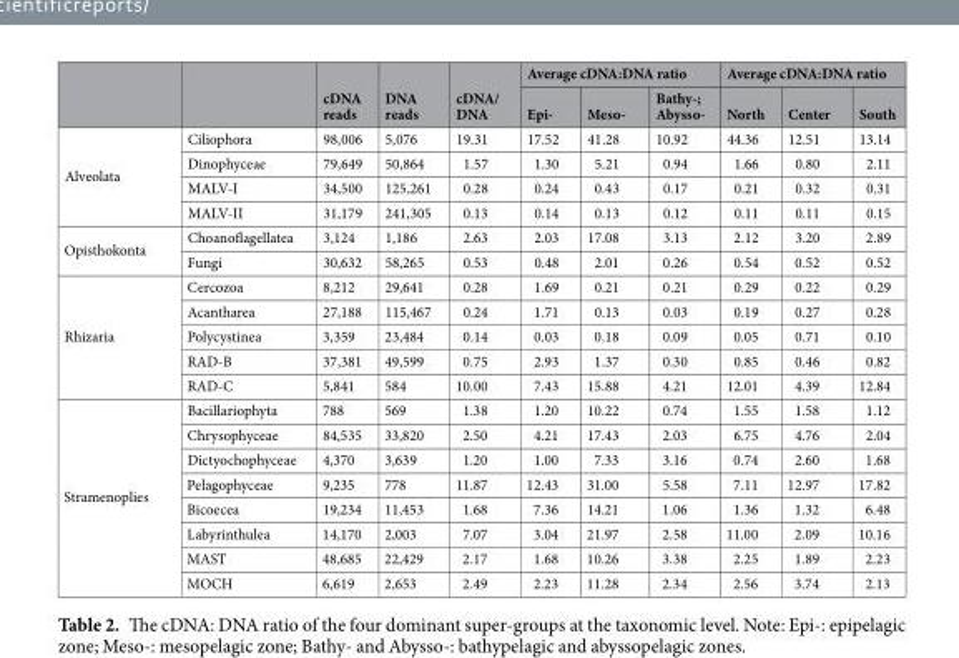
<table><thead><tr><td rowspan="2"></td><td rowspan="2"></td><td rowspan="2">cDNA reads</td><td rowspan="2">DNA reads</td><td rowspan="2">cDNA/ DNA</td><td colspan="3">Average cDNA:DNA ratio</td><td colspan="3">Average cDNA:DNA ratio</td></tr><tr><td>Epi-</td><td>Meso-</td><td>Bathy-; Abysso-</td><td>North</td><td>Center</td><td>South</td></tr></thead><tbody><tr><td rowspan="4">Alveolata</td><td>Ciliophora</td><td>98,006</td><td>5,076</td><td>19.31</td><td>17.52</td><td>41.28</td><td>10.92</td><td>44.36</td><td>12.51</td><td>13.14</td></tr><tr><td>Dinophyceae</td><td>79,649</td><td>50,864</td><td>1.57</td><td>1.30</td><td>5.21</td><td>0.94</td><td>1.66</td><td>0.80</td><td>2.11</td></tr><tr><td>MALV-I</td><td>34,500</td><td>125,261</td><td>0.28</td><td>0.24</td><td>0.43</td><td>0.17</td><td>0.21</td><td>0.32</td><td>0.31</td></tr><tr><td>MALV-II</td><td>31,179</td><td>241,305</td><td>0.13</td><td>0.14</td><td>0.13</td><td>0.12</td><td>0.11</td><td>0.11</td><td>0.15</td></tr><tr><td rowspan="2">Opisthokonta</td><td>Choanoflagellatea</td><td>3,124</td><td>1,186</td><td>2.63</td><td>2.03</td><td>17.08</td><td>3.13</td><td>2.12</td><td>3.20</td><td>2.89</td></tr><tr><td>Fungi</td><td>30,632</td><td>58,265</td><td>0.53</td><td>0.48</td><td>2.01</td><td>0.26</td><td>0.54</td><td>0.52</td><td>0.52</td></tr><tr><td rowspan="5">Rhizaria</td><td>Cercozoa</td><td>8,212</td><td>29,641</td><td>0.28</td><td>1.69</td><td>0.21</td><td>0.21</td><td>0.29</td><td>0.22</td><td>0.29</td></tr><tr><td>Acantharea</td><td>27,188</td><td>115,467</td><td>0.24</td><td>1.71</td><td>0.13</td><td>0.03</td><td>0.19</td><td>0.27</td><td>0.28</td></tr><tr><td>Polycystinea</td><td>3,359</td><td>23,484</td><td>0.14</td><td>0.03</td><td>0.18</td><td>0.09</td><td>0.05</td><td>0.71</td><td>0.10</td></tr><tr><td>RAD-B</td><td>37,381</td><td>49,599</td><td>0.75</td><td>2.93</td><td>1.37</td><td>0.30</td><td>0.85</td><td>0.46</td><td>0.82</td></tr><tr><td>RAD-C</td><td>5,841</td><td>584</td><td>10.00</td><td>7.43</td><td>15.88</td><td>4.21</td><td>12.01</td><td>4.39</td><td>12.84</td></tr><tr><td rowspan="8">Stramenoplies</td><td>Bacillariophyta</td><td>788</td><td>569</td><td>1.38</td><td>1.20</td><td>10.22</td><td>0.74</td><td>1.55</td><td>1.58</td><td>1.12</td></tr><tr><td>Chrysophyceae</td><td>84,535</td><td>33,820</td><td>2.50</td><td>4.21</td><td>17.43</td><td>2.03</td><td>6.75</td><td>4.76</td><td>2.04</td></tr><tr><td>Dictyochophyceae</td><td>4,370</td><td>3,639</td><td>1.20</td><td>1.00</td><td>7.33</td><td>3.16</td><td>0.74</td><td>2.60</td><td>1.68</td></tr><tr><td>Pelagophyceae</td><td>9,235</td><td>778</td><td>11.87</td><td>12.43</td><td>31.00</td><td>5.58</td><td>7.11</td><td>12.97</td><td>17.82</td></tr><tr><td>Bicoecea</td><td>19,234</td><td>11,453</td><td>1.68</td><td>7.36</td><td>14.21</td><td>1.06</td><td>1.36</td><td>1.32</td><td>6.48</td></tr><tr><td>Labyrinthulea</td><td>14,170</td><td>2,003</td><td>7.07</td><td>3.04</td><td>21.97</td><td>2.58</td><td>11.00</td><td>2.09</td><td>10.16</td></tr><tr><td>MAST</td><td>48,685</td><td>22,429</td><td>2.17</td><td>1.68</td><td>10.26</td><td>3.38</td><td>2.25</td><td>1.89</td><td>2.23</td></tr><tr><td>MOCH</td><td>6,619</td><td>2,653</td><td>2.49</td><td>2.23</td><td>11.28</td><td>2.34</td><td>2.56</td><td>3.74</td><td>2.13</td></tr></tbody></table>